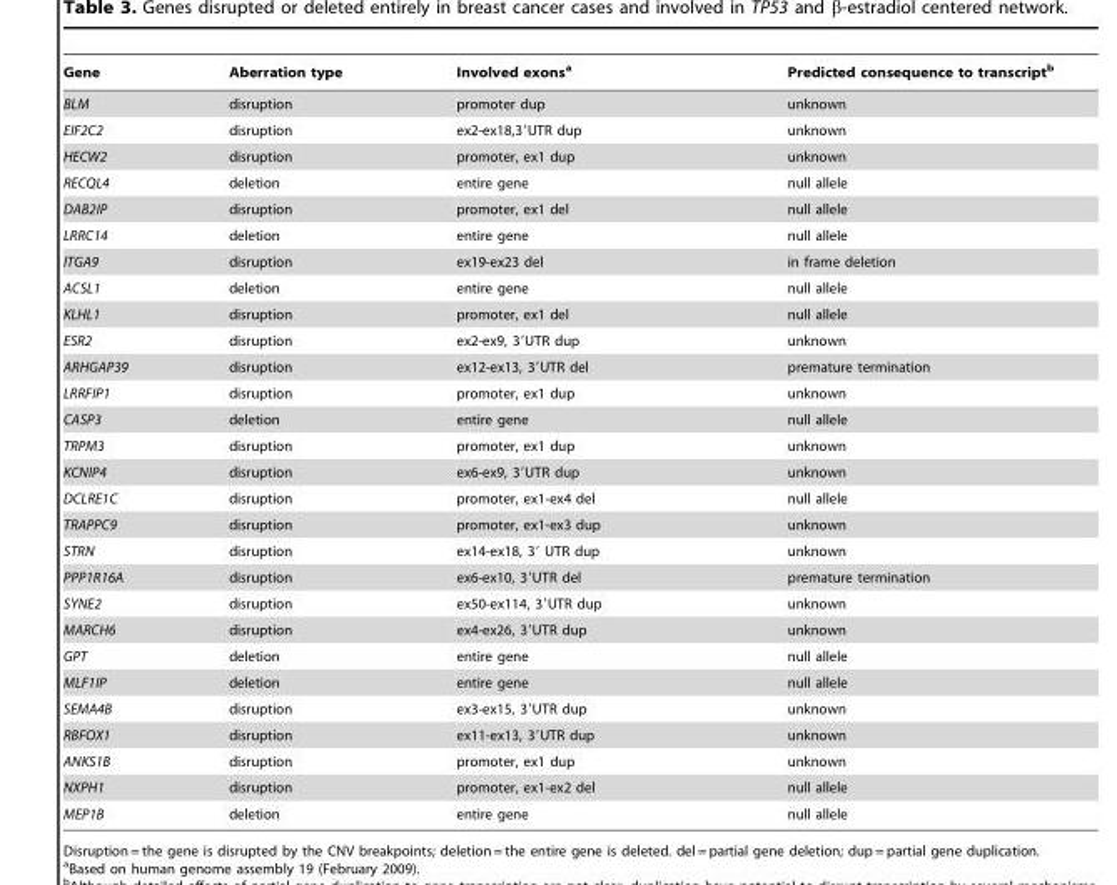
<table><thead><tr><td>Gene</td><td>Aberration type</td><td>Involved exons<sup>a</sup></td><td>Predicted consequence to transcript<sup>b</sup></td></tr></thead><tbody><tr><td>BLM</td><td>disruption</td><td>promoter dup</td><td>unknown</td></tr><tr><td>EIF2C2</td><td>disruption</td><td>ex2-ex18,3′UTR dup</td><td>unknown</td></tr><tr><td>HECW2</td><td>disruption</td><td>promoter, ex1 dup</td><td>unknown</td></tr><tr><td>RECQL4</td><td>deletion</td><td>entire gene</td><td>null allele</td></tr><tr><td>DAB2IP</td><td>disruption</td><td>promoter, ex1 del</td><td>null allele</td></tr><tr><td>LRRC14</td><td>deletion</td><td>entire gene</td><td>null allele</td></tr><tr><td>ITGA9</td><td>disruption</td><td>ex19-ex23 del</td><td>in frame deletion</td></tr><tr><td>ACSL1</td><td>deletion</td><td>entire gene</td><td>null allele</td></tr><tr><td>KLHL1</td><td>disruption</td><td>promoter, ex1 del</td><td>null allele</td></tr><tr><td>ESR2</td><td>disruption</td><td>ex2-ex9, 3′UTR dup</td><td>unknown</td></tr><tr><td>ARHGAP39</td><td>disruption</td><td>ex12-ex13, 3′UTR del</td><td>premature termination</td></tr><tr><td>LRRFIP1</td><td>disruption</td><td>promoter, ex1 dup</td><td>unknown</td></tr><tr><td>CASP3</td><td>deletion</td><td>entire gene</td><td>null allele</td></tr><tr><td>TRPM3</td><td>disruption</td><td>promoter, ex1 dup</td><td>unknown</td></tr><tr><td>KCNIP4</td><td>disruption</td><td>ex6-ex9, 3′UTR dup</td><td>unknown</td></tr><tr><td>DCLRE1C</td><td>disruption</td><td>promoter, ex1-ex4 del</td><td>null allele</td></tr><tr><td>TRAPPC9</td><td>disruption</td><td>promoter, ex1-ex3 dup</td><td>unknown</td></tr><tr><td>STRN</td><td>disruption</td><td>ex14-ex18, 3′ UTR dup</td><td>unknown</td></tr><tr><td>PPP1R16A</td><td>disruption</td><td>ex6-ex10, 3′UTR del</td><td>premature termination</td></tr><tr><td>SYNE2</td><td>disruption</td><td>ex50-ex114, 3′UTR dup</td><td>unknown</td></tr><tr><td>MARCH6</td><td>disruption</td><td>ex4-ex26, 3′UTR dup</td><td>unknown</td></tr><tr><td>GPT</td><td>deletion</td><td>entire gene</td><td>null allele</td></tr><tr><td>MLF1IP</td><td>deletion</td><td>entire gene</td><td>null allele</td></tr><tr><td>SEMA4B</td><td>disruption</td><td>ex3-ex15, 3′UTR dup</td><td>unknown</td></tr><tr><td>RBFOX1</td><td>disruption</td><td>ex11-ex13, 3′UTR dup</td><td>unknown</td></tr><tr><td>ANKS1B</td><td>disruption</td><td>promoter, ex1 dup</td><td>unknown</td></tr><tr><td>NXPH1</td><td>disruption</td><td>promoter, ex1-ex2 del</td><td>null allele</td></tr><tr><td>MEP1B</td><td>deletion</td><td>entire gene</td><td>null allele</td></tr></tbody></table>